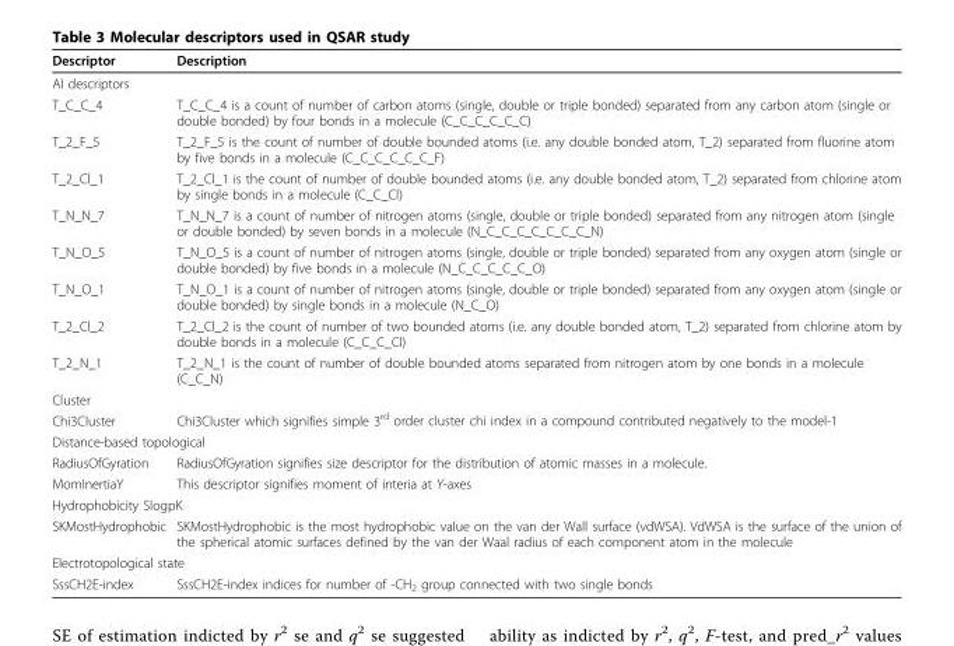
<table><thead><tr><td>Descriptor</td><td>Description</td></tr></thead><tbody><tr><td colspan="2">AI descriptors</td></tr><tr><td>T_C_C_4</td><td>T_C_C_4 is a count of number of carbon atoms (single, double or triple bonded) separated from any carbon atom (single or double bonded) by four bonds in a molecule (C_C_C_C_C_C)</td></tr><tr><td>T_2_F_5</td><td>T_2_F_5 is the count of number of double bounded atoms (i.e. any double bonded atom, T_2) separated from fluorine atom by five bonds in a molecule (C_C_C_C_C_C_F)</td></tr><tr><td>T_2_Cl_1</td><td>T_2_Cl_1 is the count of number of double bounded atoms (i.e. any double bonded atom, T_2) separated from chlorine atom by single bonds in a molecule (C_C_Cl)</td></tr><tr><td>T_N_N_7</td><td>T_N_N_7 is a count of number of nitrogen atoms (single, double or triple bonded) separated from any nitrogen atom (single or double bonded) by seven bonds in a molecule (N_C_C_C_C_C_C_C_N)</td></tr><tr><td>T_N_O_5</td><td>T_N_O_5 is a count of number of nitrogen atoms (single, double or triple bonded) separated from any oxygen atom (single or double bonded) by five bonds in a molecule (N_C_C_C_C_C_O)</td></tr><tr><td>T_N_O_1</td><td>T_N_O_1 is a count of number of nitrogen atoms (single, double or triple bonded) separated from any oxygen atom (single or double bonded) by single bonds in a molecule (N_C_O)</td></tr><tr><td>T_2_Cl_2</td><td>T_2_Cl_2 is the count of number of two bounded atoms (i.e. any double bonded atom, T_2) separated from chlorine atom by double bonds in a molecule (C_C_C_Cl)</td></tr><tr><td>T_2_N_1</td><td>T_2_N_1 is the count of number of double bounded atoms separated from nitrogen atom by one bonds in a molecule (C_C_N)</td></tr><tr><td colspan="2">Cluster</td></tr><tr><td>Chi3Cluster</td><td>Chi3Cluster which signifies simple 3<sup>rd</sup> order cluster chi index in a compound contributed negatively to the model-1</td></tr><tr><td colspan="2">Distance-based topological</td></tr><tr><td>RadiusOfGyration</td><td>RadiusOfGyration signifies size descriptor for the distribution of atomic masses in a molecule.</td></tr><tr><td>MomInertiaY</td><td>This descriptor signifies moment of interia at Y-axes</td></tr><tr><td colspan="2">Hydrophobicity SlogpK</td></tr><tr><td>SKMostHydrophobic</td><td>SKMostHydrophobic is the most hydrophobic value on the van der Wall surface (vdWSA). VdWSA is the surface of the union of the spherical atomic surfaces defined by the van der Waal radius of each component atom in the molecule</td></tr><tr><td colspan="2">Electrotopological state</td></tr><tr><td>SssCH2E-index</td><td>SssCH2E-index indices for number of -CH<sub>2</sub> group connected with two single bonds</td></tr></tbody></table>